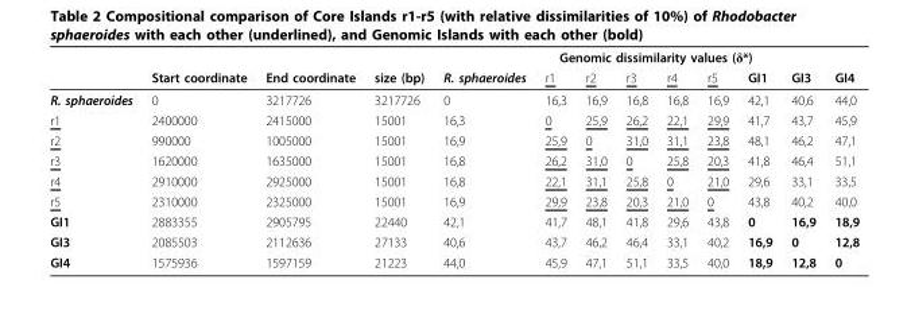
<table><thead><tr><td rowspan="2"></td><td rowspan="2">Start coordinate</td><td rowspan="2">End coordinate</td><td rowspan="2">size (bp)</td><td colspan="9">Genomic dissimilarity values (δ*)</td></tr><tr><td>R. sphaeroides</td><td>r1</td><td>r2</td><td>r3</td><td>r4</td><td>r5</td><td>GI1</td><td>GI3</td><td>GI4</td></tr></thead><tbody><tr><td>R. sphaeroides</td><td>0</td><td>3217726</td><td>3217726</td><td>0</td><td>16,3</td><td>16,9</td><td>16,8</td><td>16,8</td><td>16,9</td><td>42,1</td><td>40,6</td><td>44,0</td></tr><tr><td>r1</td><td>2400000</td><td>2415000</td><td>15001</td><td>16,3</td><td>0</td><td>25,9</td><td>26,2</td><td>22,1</td><td>29,9</td><td>41,7</td><td>43,7</td><td>45,9</td></tr><tr><td>r2</td><td>990000</td><td>1005000</td><td>15001</td><td>16,9</td><td>25,9</td><td>0</td><td>31,0</td><td>31,1</td><td>23,8</td><td>48,1</td><td>46,2</td><td>47,1</td></tr><tr><td>r3</td><td>1620000</td><td>1635000</td><td>15001</td><td>16,8</td><td>26,2</td><td>31,0</td><td>0</td><td>25,8</td><td>20,3</td><td>41,8</td><td>46,4</td><td>51,1</td></tr><tr><td>r4</td><td>2910000</td><td>2925000</td><td>15001</td><td>16,8</td><td>22,1</td><td>31,1</td><td>25,8</td><td>0</td><td>21,0</td><td>29,6</td><td>33,1</td><td>33,5</td></tr><tr><td>r5</td><td>2310000</td><td>2325000</td><td>15001</td><td>16,9</td><td>29,9</td><td>23,8</td><td>20,3</td><td>21,0</td><td>0</td><td>43,8</td><td>40,2</td><td>40,0</td></tr><tr><td>GI1</td><td>2883355</td><td>2905795</td><td>22440</td><td>42,1</td><td>41,7</td><td>48,1</td><td>41,8</td><td>29,6</td><td>43,8</td><td>0</td><td>16,9</td><td>18,9</td></tr><tr><td>GI3</td><td>2085503</td><td>2112636</td><td>27133</td><td>40,6</td><td>43,7</td><td>46,2</td><td>46,4</td><td>33,1</td><td>40,2</td><td>16,9</td><td>0</td><td>12,8</td></tr><tr><td>GI4</td><td>1575936</td><td>1597159</td><td>21223</td><td>44,0</td><td>45,9</td><td>47,1</td><td>51,1</td><td>33,5</td><td>40,0</td><td>18,9</td><td>12,8</td><td>0</td></tr></tbody></table>